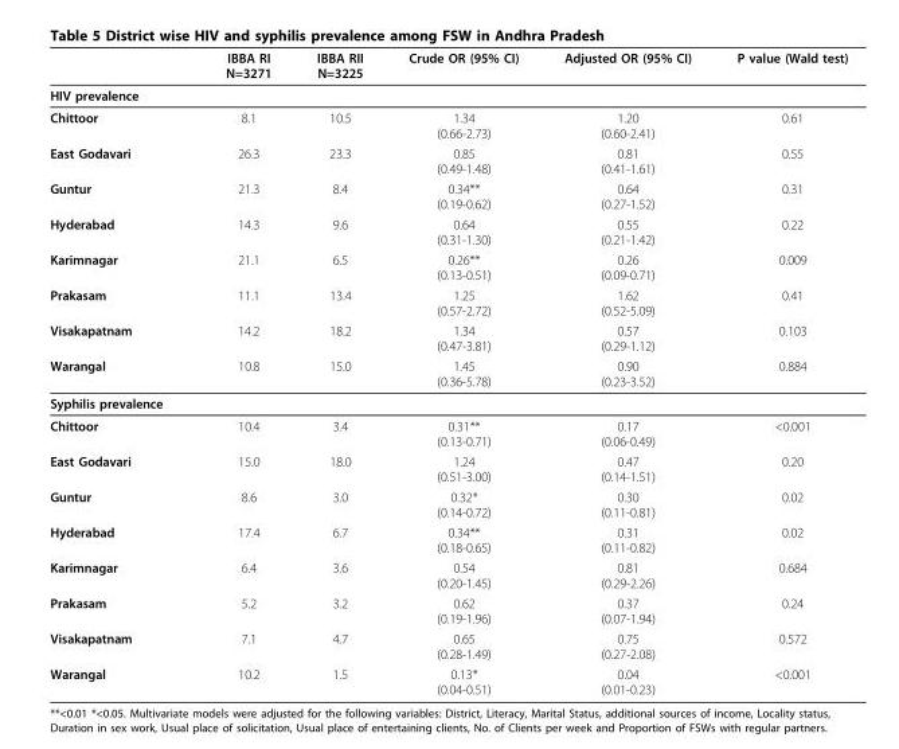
<table><thead><tr><td></td><td>IBBA RI N=3271</td><td>IBBA RII N=3225</td><td>Crude OR (95% CI)</td><td>Adjusted OR (95% CI)</td><td>P value (Wald test)</td></tr></thead><tbody><tr><td colspan="6">HIV prevalence</td></tr><tr><td>Chittoor</td><td>8.1</td><td>10.5</td><td>1.34 (0.66-2.73)</td><td>1.20 (0.60-2.41)</td><td>0.61</td></tr><tr><td>East Godavari</td><td>26.3</td><td>23.3</td><td>0.85 (0.49-1.48)</td><td>0.81 (0.41-1.61)</td><td>0.55</td></tr><tr><td>Guntur</td><td>21.3</td><td>8.4</td><td>0.34** (0.19-0.62)</td><td>0.64 (0.27-1.52)</td><td>0.31</td></tr><tr><td>Hyderabad</td><td>14.3</td><td>9.6</td><td>0.64 (0.31-1.30)</td><td>0.55 (0.21-1.42)</td><td>0.22</td></tr><tr><td>Karimnagar</td><td>21.1</td><td>6.5</td><td>0.26** (0.13-0.51)</td><td>0.26 (0.09-0.71)</td><td>0.009</td></tr><tr><td>Prakasam</td><td>11.1</td><td>13.4</td><td>1.25 (0.57-2.72)</td><td>1.62 (0.52-5.09)</td><td>0.41</td></tr><tr><td>Visakapatnam</td><td>14.2</td><td>18.2</td><td>1.34 (0.47-3.81)</td><td>0.57 (0.29-1.12)</td><td>0.103</td></tr><tr><td>Warangal</td><td>10.8</td><td>15.0</td><td>1.45 (0.36-5.78)</td><td>0.90 (0.23-3.52)</td><td>0.884</td></tr><tr><td colspan="6">Syphilis prevalence</td></tr><tr><td>Chittoor</td><td>10.4</td><td>3.4</td><td>0.31** (0.13-0.71)</td><td>0.17 (0.06-0.49)</td><td>&lt;0.001</td></tr><tr><td>East Godavari</td><td>15.0</td><td>18.0</td><td>1.24 (0.51-3.00)</td><td>0.47 (0.14-1.51)</td><td>0.20</td></tr><tr><td>Guntur</td><td>8.6</td><td>3.0</td><td>0.32* (0.14-0.72)</td><td>0.30 (0.11-0.81)</td><td>0.02</td></tr><tr><td>Hyderabad</td><td>17.4</td><td>6.7</td><td>0.34** (0.18-0.65)</td><td>0.31 (0.11-0.82)</td><td>0.02</td></tr><tr><td>Karimnagar</td><td>6.4</td><td>3.6</td><td>0.54 (0.20-1.45)</td><td>0.81 (0.29-2.26)</td><td>0.684</td></tr><tr><td>Prakasam</td><td>5.2</td><td>3.2</td><td>0.62 (0.19-1.96)</td><td>0.37 (0.07-1.94)</td><td>0.24</td></tr><tr><td>Visakapatnam</td><td>7.1</td><td>4.7</td><td>0.65 (0.28-1.49)</td><td>0.75 (0.27-2.08)</td><td>0.572</td></tr><tr><td>Warangal</td><td>10.2</td><td>1.5</td><td>0.13* (0.04-0.51)</td><td>0.04 (0.01-0.23)</td><td>&lt;0.001</td></tr></tbody></table>